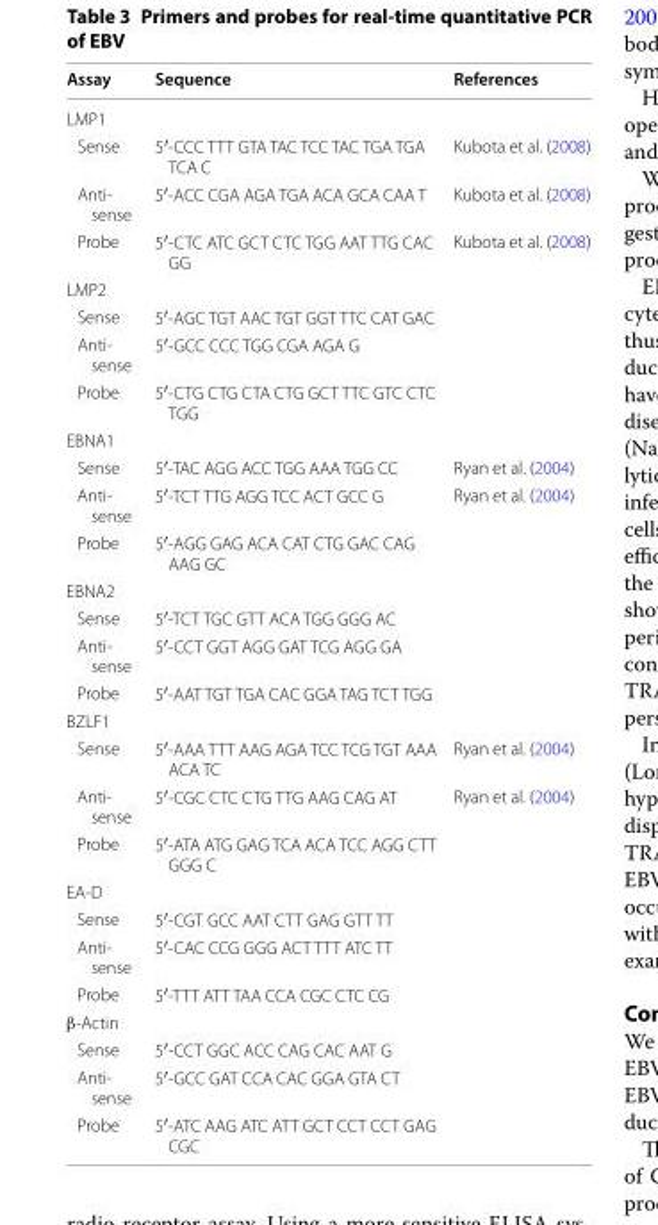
<table><thead><tr><td>Assay</td><td>Sequence</td><td>References</td></tr></thead><tbody><tr><td colspan="3">LMP1</td></tr><tr><td>Sense</td><td>5′‑CCC TTT GTA TAC TCC TAC TGA TGA TCA C</td><td>Kubota et al. (2008)</td></tr><tr><td>Anti‑ sense</td><td>5′‑ACC CGA AGA TGA ACA GCA CAA T</td><td>Kubota et al. (2008)</td></tr><tr><td>Probe</td><td>5′‑CTC ATC GCT CTC TGG AAT TTG CAC GG</td><td>Kubota et al. (2008)</td></tr><tr><td colspan="3">LMP2</td></tr><tr><td>Sense</td><td>5′‑AGC TGT AAC TGT GGT TTC CAT GAC</td><td></td></tr><tr><td>Anti‑ sense</td><td>5′‑GCC CCC TGG CGA AGA G</td><td></td></tr><tr><td>Probe</td><td>5′‑CTG CTG CTA CTG GCT TTC GTC CTC TGG</td><td></td></tr><tr><td colspan="3">EBNA1</td></tr><tr><td>Sense</td><td>5′‑TAC AGG ACC TGG AAA TGG CC</td><td>Ryan et al. (2004)</td></tr><tr><td>Anti‑ sense</td><td>5′‑TCT TTG AGG TCC ACT GCC G</td><td>Ryan et al. (2004)</td></tr><tr><td>Probe</td><td>5′‑AGG GAG ACA CAT CTG GAC CAG AAG GC</td><td></td></tr><tr><td colspan="3">EBNA2</td></tr><tr><td>Sense</td><td>5′‑TCT TGC GTT ACA TGG GGG AC</td><td></td></tr><tr><td>Anti‑ sense</td><td>5′‑CCT GGT AGG GAT TCG AGG GA</td><td></td></tr><tr><td>Probe</td><td>5′‑AAT TGT TGA CAC GGA TAG TCT TGG</td><td></td></tr><tr><td colspan="3">BZLF1</td></tr><tr><td>Sense</td><td>5′‑AAA TTT AAG AGA TCC TCG TGT AAA ACA TC</td><td>Ryan et al. (2004)</td></tr><tr><td>Anti‑ sense</td><td>5′‑CGC CTC CTG TTG AAG CAG AT</td><td>Ryan et al. (2004)</td></tr><tr><td>Probe</td><td>5′‑ATA ATG GAG TCA ACA TCC AGG CTT GGG C</td><td></td></tr><tr><td colspan="3">EA‑D</td></tr><tr><td>Sense</td><td>5′‑CGT GCC AAT CTT GAG GTT TT</td><td></td></tr><tr><td>Anti‑ sense</td><td>5′‑CAC CCG GGG ACT TTT ATC TT</td><td></td></tr><tr><td>Probe</td><td>5′‑TTT ATT TAA CCA CGC CTC CG</td><td></td></tr><tr><td colspan="3">β‑Actin</td></tr><tr><td>Sense</td><td>5′‑CCT GGC ACC CAG CAC AAT G</td><td></td></tr><tr><td>Anti‑ sense</td><td>5′‑GCC GAT CCA CAC GGA GTA CT</td><td></td></tr><tr><td>Probe</td><td>5′‑ATC AAG ATC ATT GCT CCT CCT GAG CGC</td><td></td></tr></tbody></table>